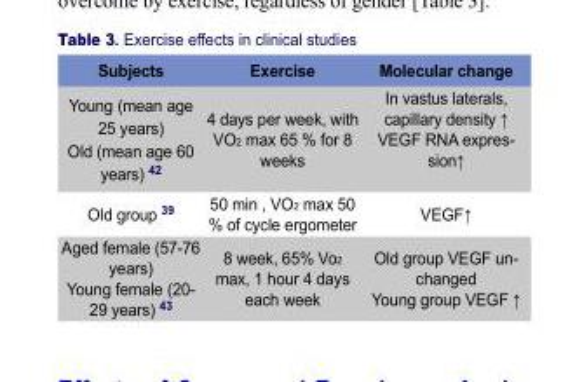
<table><thead><tr><td>Subjects</td><td>Exercise</td><td>Molecular change</td></tr></thead><tbody><tr><td>Young (mean age 25 years) Old (mean age 60 years) <sup>42</sup></td><td>4 days per week, with VO2 max 65 % for 8 weeks</td><td>In vastus laterals, capillary density ↑ VEGF RNA expres- sion↑</td></tr><tr><td>Old group <sup>39</sup></td><td>50 min , VO<sub>2</sub> max 50 % of cycle ergometer</td><td>VEGF↑</td></tr><tr><td>Aged female (57-76 years) Young female (20- 29 years) <sup>43</sup></td><td>8 week, 65% Vo<sub>2</sub> max, 1 hour 4 days each week</td><td>Old group VEGF un- changed Young group VEGF ↑</td></tr></tbody></table>